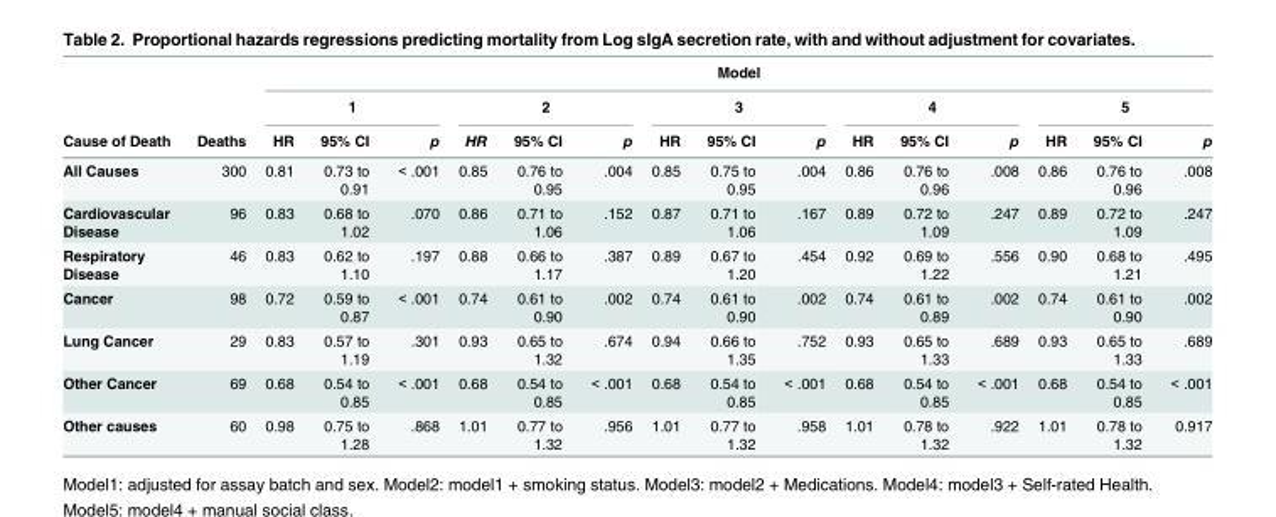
<table><thead><tr><td rowspan="3">Cause of Death</td><td rowspan="3">Deaths</td><td colspan="15">Model</td></tr><tr><td colspan="3">1</td><td colspan="3">2</td><td colspan="3">3</td><td colspan="3">4</td><td colspan="3">5</td></tr><tr><td>HR</td><td>95% CI</td><td>p</td><td>HR</td><td>95% CI</td><td>p</td><td>HR</td><td>95% CI</td><td>p</td><td>HR</td><td>95% CI</td><td>p</td><td>HR</td><td>95% CI</td><td>p</td></tr></thead><tbody><tr><td>All Causes</td><td>300</td><td>0.81</td><td>0.73 to 0.91</td><td>&lt; .001</td><td>0.85</td><td>0.76 to 0.95</td><td>.004</td><td>0.85</td><td>0.75 to 0.95</td><td>.004</td><td>0.86</td><td>0.76 to 0.96</td><td>.008</td><td>0.86</td><td>0.76 to 0.96</td><td>.008</td></tr><tr><td>Cardiovascular Disease</td><td>96</td><td>0.83</td><td>0.68 to 1.02</td><td>.070</td><td>0.86</td><td>0.71 to 1.06</td><td>.152</td><td>0.87</td><td>0.71 to 1.06</td><td>.167</td><td>0.89</td><td>0.72 to 1.09</td><td>.247</td><td>0.89</td><td>0.72 to 1.09</td><td>.247</td></tr><tr><td>Respiratory Disease</td><td>46</td><td>0.83</td><td>0.62 to 1.10</td><td>.197</td><td>0.88</td><td>0.66 to 1.17</td><td>.387</td><td>0.89</td><td>0.67 to 1.20</td><td>.454</td><td>0.92</td><td>0.69 to 1.22</td><td>.556</td><td>0.90</td><td>0.68 to 1.21</td><td>.495</td></tr><tr><td>Cancer</td><td>98</td><td>0.72</td><td>0.59 to 0.87</td><td>&lt; .001</td><td>0.74</td><td>0.61 to 0.90</td><td>.002</td><td>0.74</td><td>0.61 to 0.90</td><td>.002</td><td>0.74</td><td>0.61 to 0.89</td><td>.002</td><td>0.74</td><td>0.61 to 0.90</td><td>.002</td></tr><tr><td>Lung Cancer</td><td>29</td><td>0.83</td><td>0.57 to 1.19</td><td>.301</td><td>0.93</td><td>0.65 to 1.32</td><td>.674</td><td>0.94</td><td>0.66 to 1.35</td><td>.752</td><td>0.93</td><td>0.65 to 1.33</td><td>.689</td><td>0.93</td><td>0.65 to 1.33</td><td>.689</td></tr><tr><td>Other Cancer</td><td>69</td><td>0.68</td><td>0.54 to 0.85</td><td>&lt; .001</td><td>0.68</td><td>0.54 to 0.85</td><td>&lt; .001</td><td>0.68</td><td>0.54 to 0.85</td><td>&lt; .001</td><td>0.68</td><td>0.54 to 0.85</td><td>&lt; .001</td><td>0.68</td><td>0.54 to 0.85</td><td>&lt; .001</td></tr><tr><td>Other causes</td><td>60</td><td>0.98</td><td>0.75 to 1.28</td><td>.868</td><td>1.01</td><td>0.77 to 1.32</td><td>.956</td><td>1.01</td><td>0.77 to 1.32</td><td>.958</td><td>1.01</td><td>0.78 to 1.32</td><td>.922</td><td>1.01</td><td>0.78 to 1.32</td><td>0.917</td></tr></tbody></table>